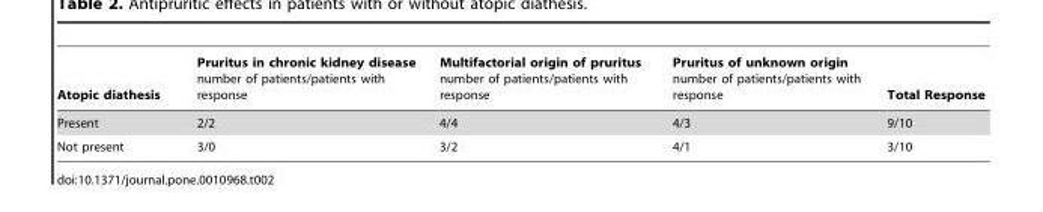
<table><thead><tr><td>Atopic diathesis</td><td>Pruritus in chronic kidney disease number of patients/patients with response</td><td>Multifactorial origin of pruritus number of patients/patients with response</td><td>Pruritus of unknown origin number of patients/patients with response</td><td>Total Response</td></tr></thead><tbody><tr><td>Present</td><td>2/2</td><td>4/4</td><td>4/3</td><td>9/10</td></tr><tr><td>Not present</td><td>3/0</td><td>3/2</td><td>4/1</td><td>3/10</td></tr></tbody></table>